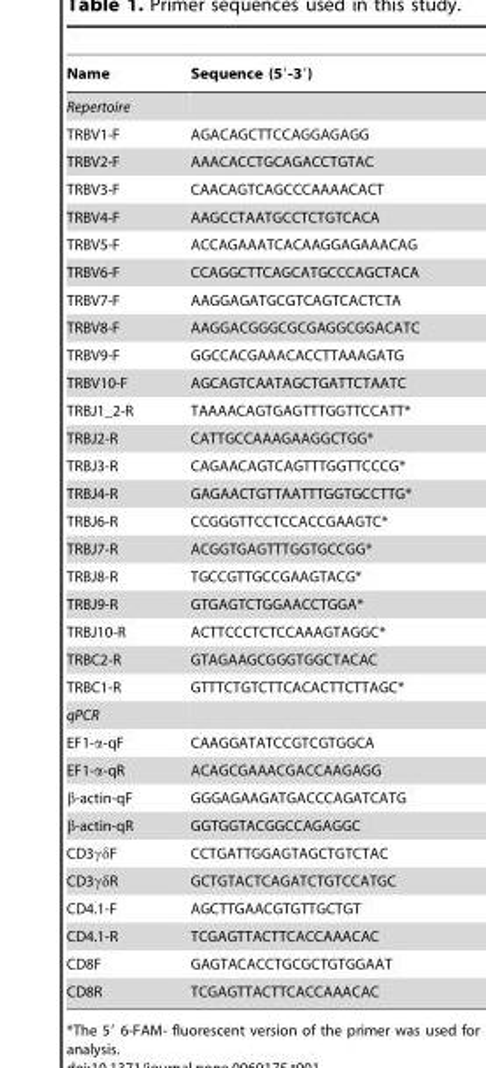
<table><thead><tr><td>Name</td><td>Sequence (5′-3′)</td></tr></thead><tbody><tr><td colspan="2">Repertoire</td></tr><tr><td>TRBV1-F</td><td>AGACAGCTTCCAGGAGAGG</td></tr><tr><td>TRBV2-F</td><td>AAACACCTGCAGACCTGTAC</td></tr><tr><td>TRBV3-F</td><td>CAACAGTCAGCCCAAAACACT</td></tr><tr><td>TRBV4-F</td><td>AAGCCTAATGCCTCTGTCACA</td></tr><tr><td>TRBV5-F</td><td>ACCAGAAATCACAAGGAGAAACAG</td></tr><tr><td>TRBV6-F</td><td>CCAGGCTTCAGCATGCCCAGCTACA</td></tr><tr><td>TRBV7-F</td><td>AAGGAGATGCGTCAGTCACTCTA</td></tr><tr><td>TRBV8-F</td><td>AAGGACGGGCGCGAGGCGGACATC</td></tr><tr><td>TRBV9-F</td><td>GGCCACGAAACACCTTAAAGATG</td></tr><tr><td>TRBV10-F</td><td>AGCAGTCAATAGCTGATTCTAATC</td></tr><tr><td>TRBJ1_2-R</td><td>TAAAACAGTGAGTTTGGTTCCATT*</td></tr><tr><td>TRBJ2-R</td><td>CATTGCCAAAGAAGGCTGG*</td></tr><tr><td>TRBJ3-R</td><td>CAGAACAGTCAGTTTGGTTCCCG*</td></tr><tr><td>TRBJ4-R</td><td>GAGAACTGTTAATTTGGTGCCTTG*</td></tr><tr><td>TRBJ6-R</td><td>CCGGGTTCCTCCACCGAAGTC*</td></tr><tr><td>TRBJ7-R</td><td>ACGGTGAGTTTGGTGCCGG*</td></tr><tr><td>TRBJ8-R</td><td>TGCCGTTGCCGAAGTACG*</td></tr><tr><td>TRBJ9-R</td><td>GTGAGTCTGGAACCTGGA*</td></tr><tr><td>TRBJ10-R</td><td>ACTTCCCTCTCCAAAGTAGGC*</td></tr><tr><td>TRBC2-R</td><td>GTAGAAGCGGGTGGCTACAC</td></tr><tr><td>TRBC1-R</td><td>GTTTCTGTCTTCACACTTCTTAGC*</td></tr><tr><td colspan="2">qPCR</td></tr><tr><td>EF1-α-qF</td><td>CAAGGATATCCGTCGTGGCA</td></tr><tr><td>EF1-α-qR</td><td>ACAGCGAAACGACCAAGAGG</td></tr><tr><td>β-actin-qF</td><td>GGGAGAAGATGACCCAGATCATG</td></tr><tr><td>β-actin-qR</td><td>GGTGGTACGGCCAGAGGC</td></tr><tr><td>CD3γδF</td><td>CCTGATTGGAGTAGCTGTCTAC</td></tr><tr><td>CD3γδR</td><td>GCTGTACTCAGATCTGTCCATGC</td></tr><tr><td>CD4.1-F</td><td>AGCTTGAACGTGTTGCTGT</td></tr><tr><td>CD4.1-R</td><td>TCGAGTTACTTCACCAAACAC</td></tr><tr><td>CD8F</td><td>GAGTACACCTGCGCTGTGGAAT</td></tr><tr><td>CD8R</td><td>TCGAGTTACTTCACCAAACAC</td></tr></tbody></table>